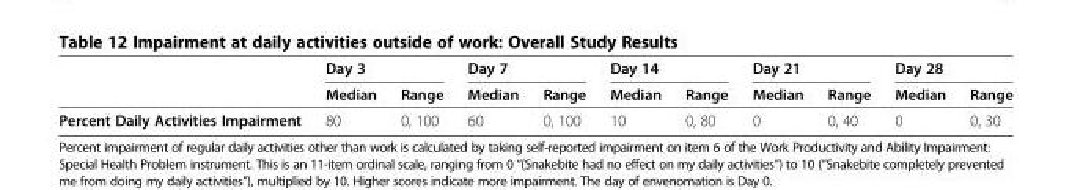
<table><thead><tr><td rowspan="2"></td><td colspan="2">Day 3</td><td colspan="2">Day 7</td><td colspan="2">Day 14</td><td colspan="2">Day 21</td><td colspan="2">Day 28</td></tr><tr><td>Median</td><td>Range</td><td>Median</td><td>Range</td><td>Median</td><td>Range</td><td>Median</td><td>Range</td><td>Median</td><td>Range</td></tr></thead><tbody><tr><td>Percent Daily Activities Impairment</td><td>80</td><td>0, 100</td><td>60</td><td>0, 100</td><td>10</td><td>0, 80</td><td>0</td><td>0, 40</td><td>0</td><td>0, 30</td></tr></tbody></table>